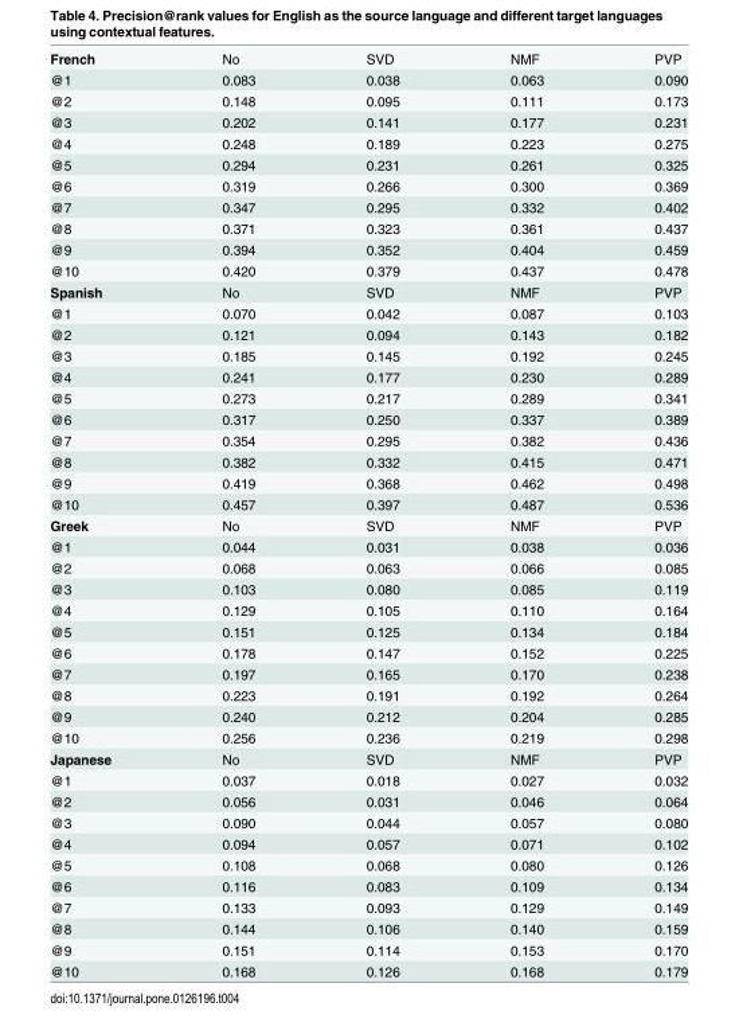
<table><tbody><tr><td>French</td><td>No</td><td>SVD</td><td>NMF</td><td>PVP</td></tr><tr><td>@1</td><td>0.083</td><td>0.038</td><td>0.063</td><td>0.090</td></tr><tr><td>@2</td><td>0.148</td><td>0.095</td><td>0.111</td><td>0.173</td></tr><tr><td>@3</td><td>0.202</td><td>0.141</td><td>0.177</td><td>0.231</td></tr><tr><td>@4</td><td>0.248</td><td>0.189</td><td>0.223</td><td>0.275</td></tr><tr><td>@5</td><td>0.294</td><td>0.231</td><td>0.261</td><td>0.325</td></tr><tr><td>@6</td><td>0.319</td><td>0.266</td><td>0.300</td><td>0.369</td></tr><tr><td>@7</td><td>0.347</td><td>0.295</td><td>0.332</td><td>0.402</td></tr><tr><td>@8</td><td>0.371</td><td>0.323</td><td>0.361</td><td>0.437</td></tr><tr><td>@9</td><td>0.394</td><td>0.352</td><td>0.404</td><td>0.459</td></tr><tr><td>@10</td><td>0.420</td><td>0.379</td><td>0.437</td><td>0.478</td></tr><tr><td>Spanish</td><td>No</td><td>SVD</td><td>NMF</td><td>PVP</td></tr><tr><td>@1</td><td>0.070</td><td>0.042</td><td>0.087</td><td>0.103</td></tr><tr><td>@2</td><td>0.121</td><td>0.094</td><td>0.143</td><td>0.182</td></tr><tr><td>@3</td><td>0.185</td><td>0.145</td><td>0.192</td><td>0.245</td></tr><tr><td>@4</td><td>0.241</td><td>0.177</td><td>0.230</td><td>0.289</td></tr><tr><td>@5</td><td>0.273</td><td>0.217</td><td>0.289</td><td>0.341</td></tr><tr><td>@6</td><td>0.317</td><td>0.250</td><td>0.337</td><td>0.389</td></tr><tr><td>@7</td><td>0.354</td><td>0.295</td><td>0.382</td><td>0.436</td></tr><tr><td>@8</td><td>0.382</td><td>0.332</td><td>0.415</td><td>0.471</td></tr><tr><td>@9</td><td>0.419</td><td>0.368</td><td>0.462</td><td>0.498</td></tr><tr><td>@10</td><td>0.457</td><td>0.397</td><td>0.487</td><td>0.536</td></tr><tr><td>Greek</td><td>No</td><td>SVD</td><td>NMF</td><td>PVP</td></tr><tr><td>@1</td><td>0.044</td><td>0.031</td><td>0.038</td><td>0.036</td></tr><tr><td>@2</td><td>0.068</td><td>0.063</td><td>0.066</td><td>0.085</td></tr><tr><td>@3</td><td>0.103</td><td>0.080</td><td>0.085</td><td>0.119</td></tr><tr><td>@4</td><td>0.129</td><td>0.105</td><td>0.110</td><td>0.164</td></tr><tr><td>@5</td><td>0.151</td><td>0.125</td><td>0.134</td><td>0.184</td></tr><tr><td>@6</td><td>0.178</td><td>0.147</td><td>0.152</td><td>0.225</td></tr><tr><td>@7</td><td>0.197</td><td>0.165</td><td>0.170</td><td>0.238</td></tr><tr><td>@8</td><td>0.223</td><td>0.191</td><td>0.192</td><td>0.264</td></tr><tr><td>@9</td><td>0.240</td><td>0.212</td><td>0.204</td><td>0.285</td></tr><tr><td>@10</td><td>0.256</td><td>0.236</td><td>0.219</td><td>0.298</td></tr><tr><td>Japanese</td><td>No</td><td>SVD</td><td>NMF</td><td>PVP</td></tr><tr><td>@1</td><td>0.037</td><td>0.018</td><td>0.027</td><td>0.032</td></tr><tr><td>@2</td><td>0.056</td><td>0.031</td><td>0.046</td><td>0.064</td></tr><tr><td>@3</td><td>0.090</td><td>0.044</td><td>0.057</td><td>0.080</td></tr><tr><td>@4</td><td>0.094</td><td>0.057</td><td>0.071</td><td>0.102</td></tr><tr><td>@5</td><td>0.108</td><td>0.068</td><td>0.080</td><td>0.126</td></tr><tr><td>@6</td><td>0.116</td><td>0.083</td><td>0.109</td><td>0.134</td></tr><tr><td>@7</td><td>0.133</td><td>0.093</td><td>0.129</td><td>0.149</td></tr><tr><td>@8</td><td>0.144</td><td>0.106</td><td>0.140</td><td>0.159</td></tr><tr><td>@9</td><td>0.151</td><td>0.114</td><td>0.153</td><td>0.170</td></tr><tr><td>@10</td><td>0.168</td><td>0.126</td><td>0.168</td><td>0.179</td></tr></tbody></table>